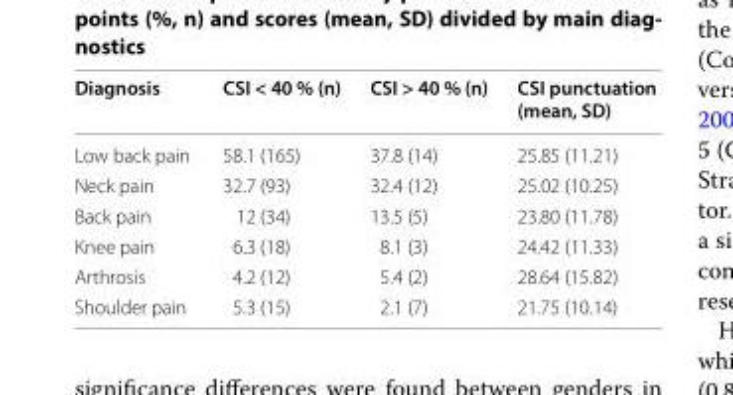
<table><thead><tr><td>Diagnosis</td><td>CSI &lt; 40 % (n)</td><td>CSI &gt; 40 % (n)</td><td>CSI punctuation (mean, SD)</td></tr></thead><tbody><tr><td>Low back pain</td><td>58.1 (165)</td><td>37.8 (14)</td><td>25.85 (11.21)</td></tr><tr><td>Neck pain</td><td>32.7 (93)</td><td>32.4 (12)</td><td>25.02 (10.25)</td></tr><tr><td>Back pain</td><td>12 (34)</td><td>13.5 (5)</td><td>23.80 (11.78)</td></tr><tr><td>Knee pain</td><td>6.3 (18)</td><td>8.1 (3)</td><td>24.42 (11.33)</td></tr><tr><td>Arthrosis</td><td>4.2 (12)</td><td>5.4 (2)</td><td>28.64 (15.82)</td></tr><tr><td>Shoulder pain</td><td>5.3 (15)</td><td>2.1 (7)</td><td>21.75 (10.14)</td></tr></tbody></table>